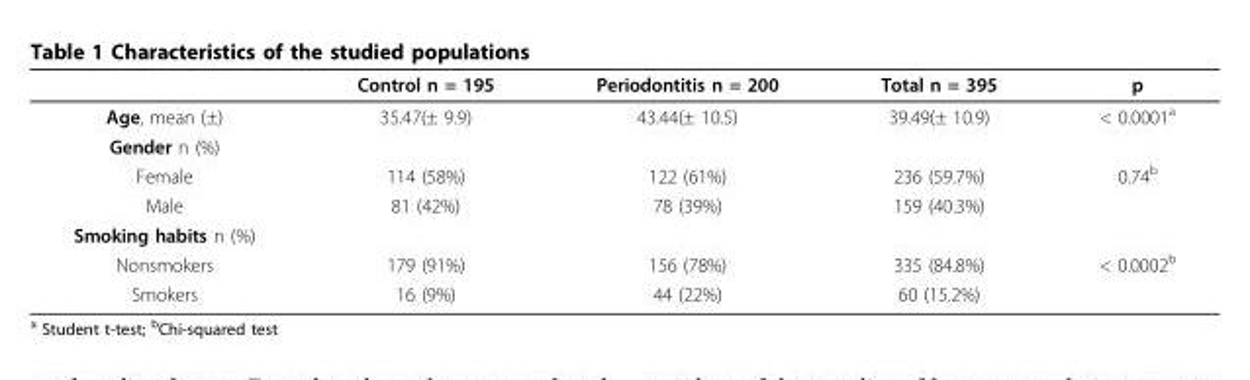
<table><thead><tr><td></td><td>Control n = 195</td><td>Periodontitis n = 200</td><td>Total n = 395</td><td>p</td></tr></thead><tbody><tr><td>Age, mean (±)</td><td>35.47(± 9.9)</td><td>43.44(± 10.5)</td><td>39.49(± 10.9)</td><td>&lt; 0.0001<sup>a</sup></td></tr><tr><td colspan="5">Gender n (%)</td></tr><tr><td>Female</td><td>114 (58%)</td><td>122 (61%)</td><td>236 (59.7%)</td><td>0.74<sup>b</sup></td></tr><tr><td>Male</td><td>81 (42%)</td><td>78 (39%)</td><td>159 (40.3%)</td><td></td></tr><tr><td colspan="5">Smoking habits n (%)</td></tr><tr><td>Nonsmokers</td><td>179 (91%)</td><td>156 (78%)</td><td>335 (84.8%)</td><td>&lt; 0.0002<sup>b</sup></td></tr><tr><td>Smokers</td><td>16 (9%)</td><td>44 (22%)</td><td>60 (15.2%)</td><td></td></tr></tbody></table>